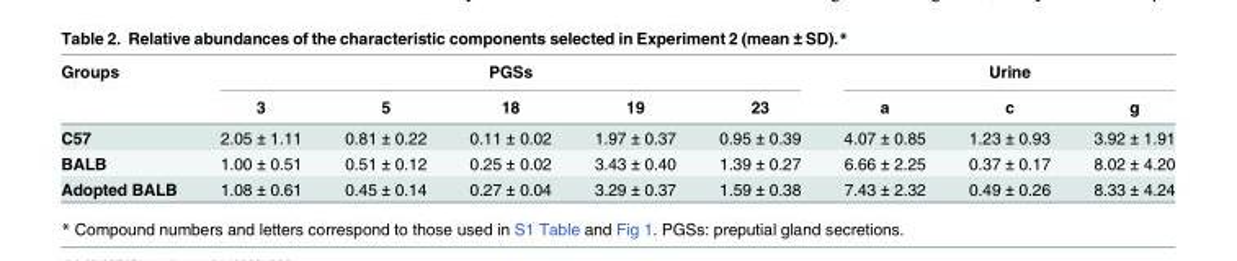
<table><thead><tr><td rowspan="2">Groups</td><td colspan="5">PGSs</td><td colspan="3">Urine</td></tr><tr><td>3</td><td>5</td><td>18</td><td>19</td><td>23</td><td>a</td><td>c</td><td>g</td></tr></thead><tbody><tr><td>C57</td><td>2.05 ± 1.11</td><td>0.81 ± 0.22</td><td>0.11 ± 0.02</td><td>1.97 ± 0.37</td><td>0.95 ± 0.39</td><td>4.07 ± 0.85</td><td>1.23 ± 0.93</td><td>3.92 ± 1.91</td></tr><tr><td>BALB</td><td>1.00 ± 0.51</td><td>0.51 ± 0.12</td><td>0.25 ± 0.02</td><td>3.43 ± 0.40</td><td>1.39 ± 0.27</td><td>6.66 ± 2.25</td><td>0.37 ± 0.17</td><td>8.02 ± 4.20</td></tr><tr><td>Adopted BALB</td><td>1.08 ± 0.61</td><td>0.45 ± 0.14</td><td>0.27 ± 0.04</td><td>3.29 ± 0.37</td><td>1.59 ± 0.38</td><td>7.43 ± 2.32</td><td>0.49 ± 0.26</td><td>8.33 ± 4.24</td></tr></tbody></table>